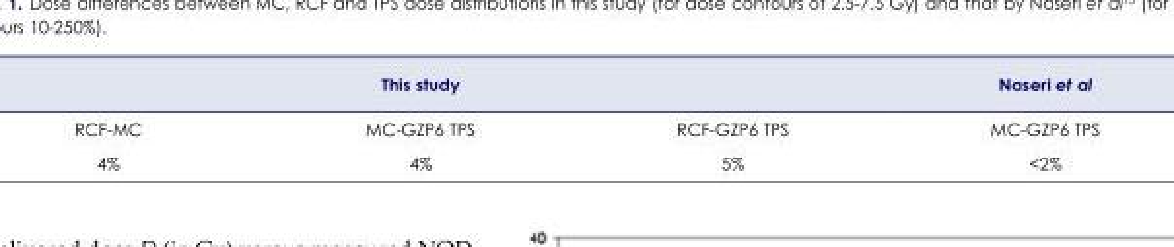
<table><thead><tr><td></td><td>This study</td><td></td><td>Naseri et al</td></tr></thead><tbody><tr><td>RCF-MC</td><td>MC-GZP6 TPS</td><td>RCF-GZP6 TPS</td><td>MC-GZP6 TPS</td></tr><tr><td>4%</td><td>4%</td><td>5%</td><td>&lt;2%</td></tr></tbody></table>